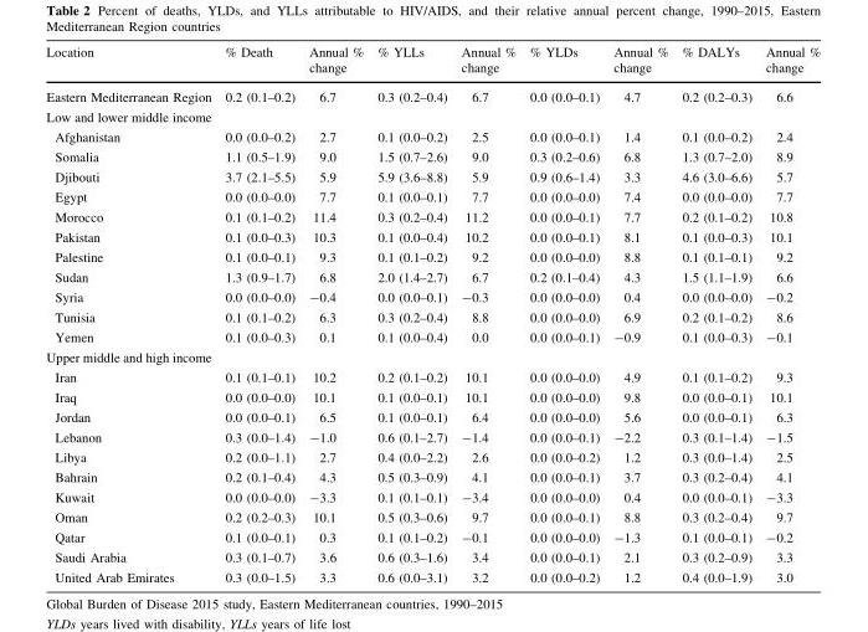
<table><thead><tr><td>Location</td><td>% Death</td><td>Annual % change</td><td>% YLLs</td><td>Annual % change</td><td>% YLDs</td><td>Annual % change</td><td>% DALYs</td><td>Annual % change</td></tr></thead><tbody><tr><td>Eastern Mediterranean Region</td><td>0.2 (0.1–0.2)</td><td>6.7</td><td>0.3 (0.2–0.4)</td><td>6.7</td><td>0.0 (0.0–0.1)</td><td>4.7</td><td>0.2 (0.2–0.3)</td><td>6.6</td></tr><tr><td colspan="9">Low and lower middle income</td></tr><tr><td>Afghanistan</td><td>0.0 (0.0–0.2)</td><td>2.7</td><td>0.1 (0.0–0.2)</td><td>2.5</td><td>0.0 (0.0–0.1)</td><td>1.4</td><td>0.1 (0.0–0.2)</td><td>2.4</td></tr><tr><td>Somalia</td><td>1.1 (0.5–1.9)</td><td>9.0</td><td>1.5 (0.7–2.6)</td><td>9.0</td><td>0.3 (0.2–0.6)</td><td>6.8</td><td>1.3 (0.7–2.0)</td><td>8.9</td></tr><tr><td>Djibouti</td><td>3.7 (2.1–5.5)</td><td>5.9</td><td>5.9 (3.6–8.8)</td><td>5.9</td><td>0.9 (0.6–1.4)</td><td>3.3</td><td>4.6 (3.0–6.6)</td><td>5.7</td></tr><tr><td>Egypt</td><td>0.0 (0.0–0.0)</td><td>7.7</td><td>0.1 (0.0–0.1)</td><td>7.7</td><td>0.0 (0.0–0.0)</td><td>7.4</td><td>0.0 (0.0–0.0)</td><td>7.7</td></tr><tr><td>Morocco</td><td>0.1 (0.1–0.2)</td><td>11.4</td><td>0.3 (0.2–0.4)</td><td>11.2</td><td>0.0 (0.0–0.1)</td><td>7.7</td><td>0.2 (0.1–0.2)</td><td>10.8</td></tr><tr><td>Pakistan</td><td>0.1 (0.0–0.3)</td><td>10.3</td><td>0.1 (0.0–0.4)</td><td>10.2</td><td>0.0 (0.0–0.1)</td><td>8.1</td><td>0.1 (0.0–0.3)</td><td>10.1</td></tr><tr><td>Palestine</td><td>0.1 (0.0–0.1)</td><td>9.3</td><td>0.1 (0.1–0.2)</td><td>9.2</td><td>0.0 (0.0–0.0)</td><td>8.8</td><td>0.1 (0.1–0.1)</td><td>9.2</td></tr><tr><td>Sudan</td><td>1.3 (0.9–1.7)</td><td>6.8</td><td>2.0 (1.4–2.7)</td><td>6.7</td><td>0.2 (0.1–0.4)</td><td>4.3</td><td>1.5 (1.1–1.9)</td><td>6.6</td></tr><tr><td>Syria</td><td>0.0 (0.0–0.0)</td><td>-0.4</td><td>0.0 (0.0–0.1)</td><td>-0.3</td><td>0.0 (0.0–0.0)</td><td>0.4</td><td>0.0 (0.0–0.0)</td><td>-0.2</td></tr><tr><td>Tunisia</td><td>0.1 (0.1–0.2)</td><td>6.3</td><td>0.3 (0.2–0.4)</td><td>8.8</td><td>0.0 (0.0–0.0)</td><td>6.9</td><td>0.2 (0.1–0.2)</td><td>8.6</td></tr><tr><td>Yemen</td><td>0.1 (0.0–0.3)</td><td>0.1</td><td>0.1 (0.0–0.4)</td><td>0.0</td><td>0.0 (0.0–0.1)</td><td>-0.9</td><td>0.1 (0.0–0.3)</td><td>-0.1</td></tr><tr><td colspan="9">Upper middle and high income</td></tr><tr><td>Iran</td><td>0.1 (0.1–0.1)</td><td>10.2</td><td>0.2 (0.1–0.2)</td><td>10.1</td><td>0.0 (0.0–0.0)</td><td>4.9</td><td>0.1 (0.1–0.2)</td><td>9.3</td></tr><tr><td>Iraq</td><td>0.0 (0.0–0.0)</td><td>10.1</td><td>0.1 (0.0–0.1)</td><td>10.1</td><td>0.0 (0.0–0.0)</td><td>9.8</td><td>0.0 (0.0–0.1)</td><td>10.1</td></tr><tr><td>Jordan</td><td>0.0 (0.0–0.1)</td><td>6.5</td><td>0.1 (0.0–0.1)</td><td>6.4</td><td>0.0 (0.0–0.0)</td><td>5.6</td><td>0.0 (0.0–0.1)</td><td>6.3</td></tr><tr><td>Lebanon</td><td>0.3 (0.0–1.4)</td><td>-1.0</td><td>0.6 (0.1–2.7)</td><td>-1.4</td><td>0.0 (0.0–0.1)</td><td>-2.2</td><td>0.3 (0.1–1.4)</td><td>-1.5</td></tr><tr><td>Libya</td><td>0.2 (0.0–1.1)</td><td>2.7</td><td>0.4 (0.0–2.2)</td><td>2.6</td><td>0.0 (0.0–0.2)</td><td>1.2</td><td>0.3 (0.0–1.4)</td><td>2.5</td></tr><tr><td>Bahrain</td><td>0.2 (0.1–0.4)</td><td>4.3</td><td>0.5 (0.3–0.9)</td><td>4.1</td><td>0.0 (0.0–0.1)</td><td>3.7</td><td>0.3 (0.2–0.4)</td><td>4.1</td></tr><tr><td>Kuwait</td><td>0.0 (0.0–0.0)</td><td>-3.3</td><td>0.1 (0.1–0.1)</td><td>-3.4</td><td>0.0 (0.0–0.0)</td><td>0.4</td><td>0.0 (0.0–0.1)</td><td>-3.3</td></tr><tr><td>Oman</td><td>0.2 (0.2–0.3)</td><td>10.1</td><td>0.5 (0.3–0.6)</td><td>9.7</td><td>0.0 (0.0–0.1)</td><td>8.8</td><td>0.3 (0.2–0.4)</td><td>9.7</td></tr><tr><td>Qatar</td><td>0.1 (0.0–0.1)</td><td>0.3</td><td>0.1 (0.1–0.2)</td><td>-0.1</td><td>0.0 (0.0–0.0)</td><td>-1.3</td><td>0.1 (0.0–0.1)</td><td>-0.2</td></tr><tr><td>Saudi Arabia</td><td>0.3 (0.1–0.7)</td><td>3.6</td><td>0.6 (0.3–1.6)</td><td>3.4</td><td>0.0 (0.0–0.1)</td><td>2.1</td><td>0.3 (0.2–0.9)</td><td>3.3</td></tr><tr><td>United Arab Emirates</td><td>0.3 (0.0–1.5)</td><td>3.3</td><td>0.6 (0.0–3.1)</td><td>3.2</td><td>0.0 (0.0–0.2)</td><td>1.2</td><td>0.4 (0.0–1.9)</td><td>3.0</td></tr></tbody></table>